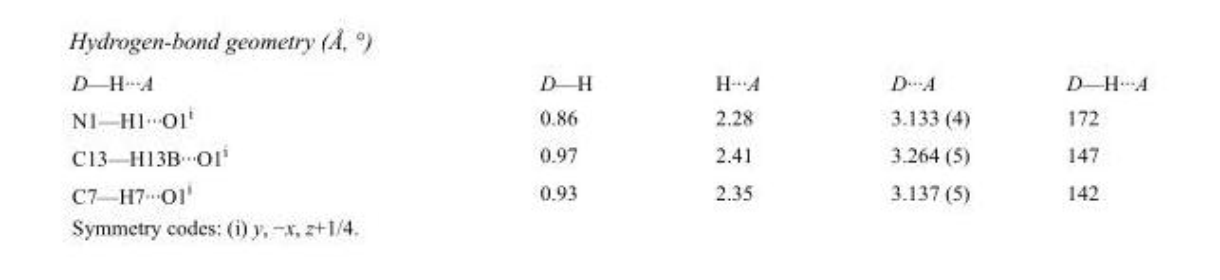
<table><tbody><tr><td>D—H···A</td><td>D—H</td><td>H···A</td><td>D···A</td><td>D—H···A</td></tr><tr><td>N1—H1···O1<sup>i</sup></td><td>0.86</td><td>2.28</td><td>3.133 (4)</td><td>172</td></tr><tr><td>C13—H13B···O1<sup>i</sup></td><td>0.97</td><td>2.41</td><td>3.264 (5)</td><td>147</td></tr><tr><td>C7—H7···O1<sup>i</sup></td><td>0.93</td><td>2.35</td><td>3.137 (5)</td><td>142</td></tr></tbody></table>